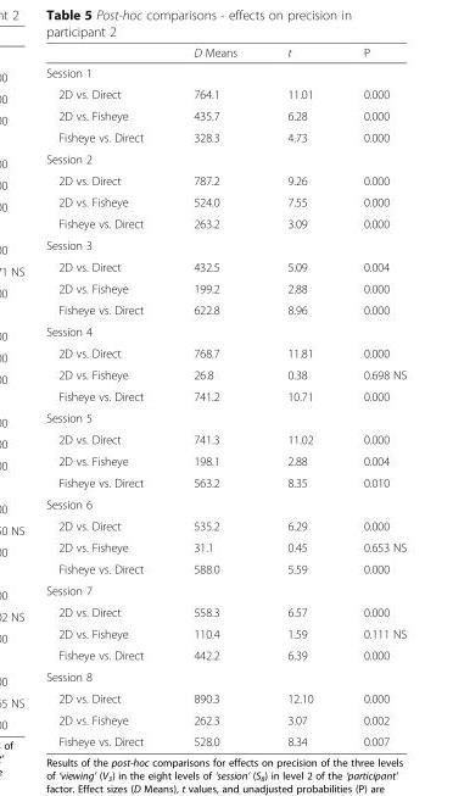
<table><thead><tr><td></td><td>D Means</td><td>t</td><td>P</td></tr></thead><tbody><tr><td colspan="4">Session 1</td></tr><tr><td>2D vs. Direct</td><td>764.1</td><td>11.01</td><td>0.000</td></tr><tr><td>2D vs. Fisheye</td><td>435.7</td><td>6.28</td><td>0.000</td></tr><tr><td>Fisheye vs. Direct</td><td>328.3</td><td>4.73</td><td>0.000</td></tr><tr><td colspan="4">Session 2</td></tr><tr><td>2D vs. Direct</td><td>787.2</td><td>9.26</td><td>0.000</td></tr><tr><td>2D vs. Fisheye</td><td>524.0</td><td>7.55</td><td>0.000</td></tr><tr><td>Fisheye vs. Direct</td><td>263.2</td><td>3.09</td><td>0.000</td></tr><tr><td colspan="4">Session 3</td></tr><tr><td>2D vs. Direct</td><td>432.5</td><td>5.09</td><td>0.004</td></tr><tr><td>2D vs. Fisheye</td><td>199.2</td><td>2.88</td><td>0.000</td></tr><tr><td>Fisheye vs. Direct</td><td>622.8</td><td>8.96</td><td>0.000</td></tr><tr><td colspan="4">Session 4</td></tr><tr><td>2D vs. Direct</td><td>768.7</td><td>11.81</td><td>0.000</td></tr><tr><td>2D vs. Fisheye</td><td>26.8</td><td>0.38</td><td>0.698 NS</td></tr><tr><td>Fisheye vs. Direct</td><td>741.2</td><td>10.71</td><td>0.000</td></tr><tr><td colspan="4">Session 5</td></tr><tr><td>2D vs. Direct</td><td>741.3</td><td>11.02</td><td>0.000</td></tr><tr><td>2D vs. Fisheye</td><td>198.1</td><td>2.88</td><td>0.004</td></tr><tr><td>Fisheye vs. Direct</td><td>563.2</td><td>8.35</td><td>0.010</td></tr><tr><td colspan="4">Session 6</td></tr><tr><td>2D vs. Direct</td><td>535.2</td><td>6.29</td><td>0.000</td></tr><tr><td>2D vs. Fisheye</td><td>31.1</td><td>0.45</td><td>0.653 NS</td></tr><tr><td>Fisheye vs. Direct</td><td>588.0</td><td>5.59</td><td>0.000</td></tr><tr><td colspan="4">Session 7</td></tr><tr><td>2D vs. Direct</td><td>558.3</td><td>6.57</td><td>0.000</td></tr><tr><td>2D vs. Fisheye</td><td>110.4</td><td>1.59</td><td>0.111 NS</td></tr><tr><td>Fisheye vs. Direct</td><td>442.2</td><td>6.39</td><td>0.000</td></tr><tr><td colspan="4">Session 8</td></tr><tr><td>2D vs. Direct</td><td>890.3</td><td>12.10</td><td>0.000</td></tr><tr><td>2D vs. Fisheye</td><td>262.3</td><td>3.07</td><td>0.002</td></tr><tr><td>Fisheye vs. Direct</td><td>528.0</td><td>8.34</td><td>0.007</td></tr></tbody></table>